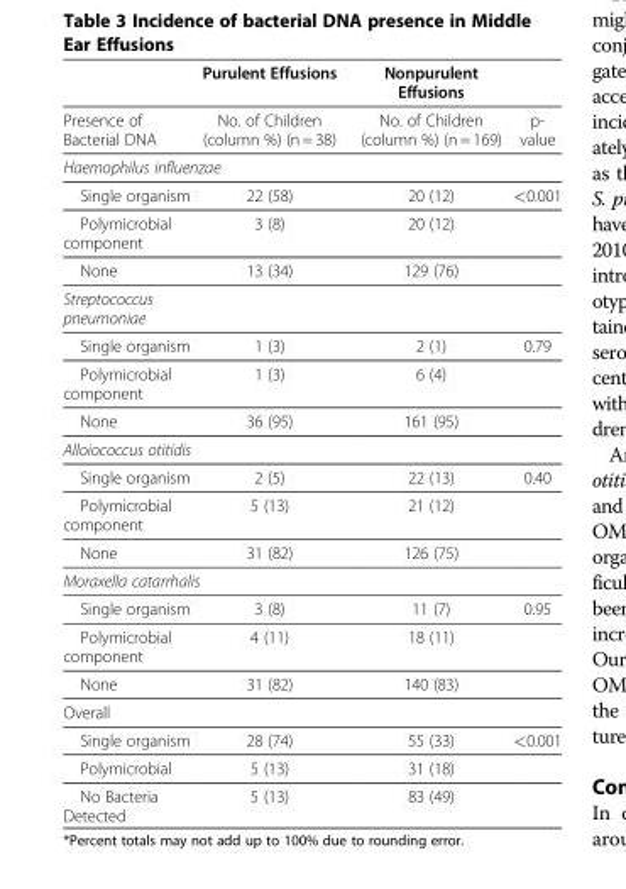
<table><thead><tr><td></td><td>Purulent Effusions</td><td>Nonpurulent Effusions</td><td></td></tr></thead><tbody><tr><td>Presence of Bacterial DNA</td><td>No. of Children (column %) (n = 38)</td><td>No. of Children (column %) (n = 169)</td><td>p- value</td></tr><tr><td colspan="4">Haemophilus influenzae</td></tr><tr><td>Single organism</td><td>22 (58)</td><td>20 (12)</td><td>&lt;0.001</td></tr><tr><td>Polymicrobial component</td><td>3 (8)</td><td>20 (12)</td><td></td></tr><tr><td>None</td><td>13 (34)</td><td>129 (76)</td><td></td></tr><tr><td colspan="4">Streptococcus pneumoniae</td></tr><tr><td>Single organism</td><td>1 (3)</td><td>2 (1)</td><td>0.79</td></tr><tr><td>Polymicrobial component</td><td>1 (3)</td><td>6 (4)</td><td></td></tr><tr><td>None</td><td>36 (95)</td><td>161 (95)</td><td></td></tr><tr><td colspan="4">Alloiococcus otitidis</td></tr><tr><td>Single organism</td><td>2 (5)</td><td>22 (13)</td><td>0.40</td></tr><tr><td>Polymicrobial component</td><td>5 (13)</td><td>21 (12)</td><td></td></tr><tr><td>None</td><td>31 (82)</td><td>126 (75)</td><td></td></tr><tr><td colspan="4">Moraxella catarrhalis</td></tr><tr><td>Single organism</td><td>3 (8)</td><td>11 (7)</td><td>0.95</td></tr><tr><td>Polymicrobial component</td><td>4 (11)</td><td>18 (11)</td><td></td></tr><tr><td>None</td><td>31 (82)</td><td>140 (83)</td><td></td></tr><tr><td colspan="4">Overall</td></tr><tr><td>Single organism</td><td>28 (74)</td><td>55 (33)</td><td>&lt;0.001</td></tr><tr><td>Polymicrobial</td><td>5 (13)</td><td>31 (18)</td><td></td></tr><tr><td>No Bacteria Detected</td><td>5 (13)</td><td>83 (49)</td><td></td></tr></tbody></table>